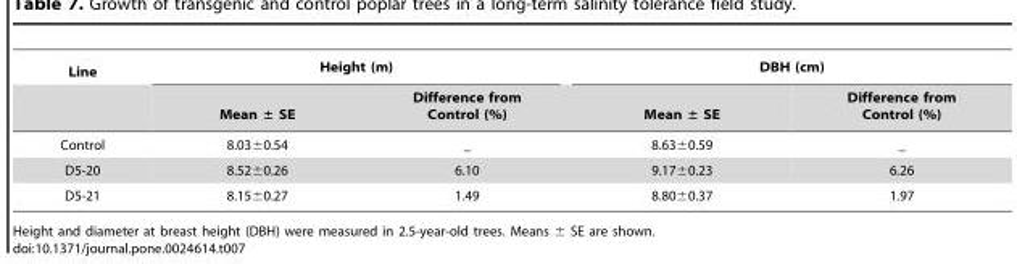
<table><thead><tr><td rowspan="2">Line</td><td colspan="2">Height (m)</td><td colspan="2">DBH (cm)</td></tr><tr><td>Mean ± SE</td><td>Difference from Control (%)</td><td>Mean ± SE</td><td>Difference from Control (%)</td></tr></thead><tbody><tr><td>Control</td><td>8.03±0.54</td><td>―</td><td>8.63±0.59</td><td>―</td></tr><tr><td>D5-20</td><td>8.52±0.26</td><td>6.10</td><td>9.17±0.23</td><td>6.26</td></tr><tr><td>D5-21</td><td>8.15±0.27</td><td>1.49</td><td>8.80±0.37</td><td>1.97</td></tr></tbody></table>